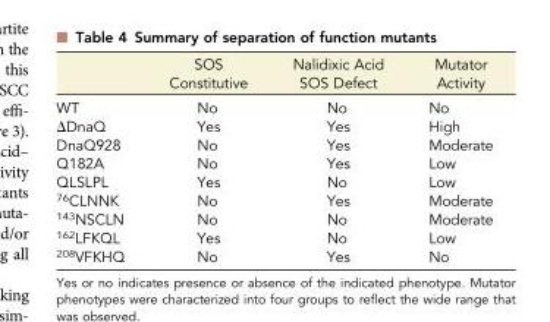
<table><thead><tr><td></td><td>SOS Constitutive</td><td>Nalidixic Acid SOS Defect</td><td>Mutator Activity</td></tr></thead><tbody><tr><td>WT</td><td>No</td><td>No</td><td>No</td></tr><tr><td>ΔDnaQ</td><td>Yes</td><td>Yes</td><td>High</td></tr><tr><td>DnaQ928</td><td>No</td><td>Yes</td><td>Moderate</td></tr><tr><td>Q182A</td><td>No</td><td>Yes</td><td>Low</td></tr><tr><td>QLSLPL</td><td>Yes</td><td>No</td><td>Low</td></tr><tr><td><sup>76</sup>CLNNK</td><td>No</td><td>Yes</td><td>Moderate</td></tr><tr><td><sup>143</sup>NSCLN</td><td>No</td><td>No</td><td>Moderate</td></tr><tr><td><sup>162</sup>LFKQL</td><td>Yes</td><td>No</td><td>Low</td></tr><tr><td><sup>208</sup>VFKHQ</td><td>No</td><td>Yes</td><td>No</td></tr></tbody></table>